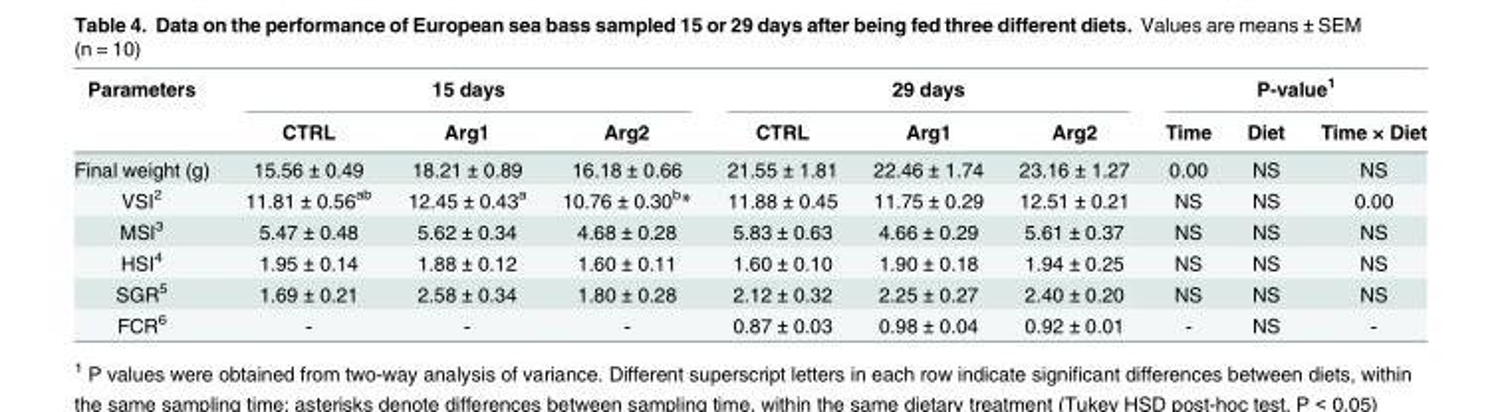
<table><thead><tr><td rowspan="2">Parameters</td><td colspan="3">15 days</td><td colspan="3">29 days</td><td colspan="3">P-value<sup>1</sup></td></tr><tr><td>CTRL</td><td>Arg1</td><td>Arg2</td><td>CTRL</td><td>Arg1</td><td>Arg2</td><td>Time</td><td>Diet</td><td>Time × Diet</td></tr></thead><tbody><tr><td>Final weight (g)</td><td>15.56 ± 0.49</td><td>18.21 ± 0.89</td><td>16.18 ± 0.66</td><td>21.55 ± 1.81</td><td>22.46 ± 1.74</td><td>23.16 ± 1.27</td><td>0.00</td><td>NS</td><td>NS</td></tr><tr><td>VSI<sup>2</sup></td><td>11.81 ± 0.56<sup>ab</sup></td><td>12.45 ± 0.43<sup>a</sup></td><td>10.76 ± 0.30<sup>b</sup>*</td><td>11.88 ± 0.45</td><td>11.75 ± 0.29</td><td>12.51 ± 0.21</td><td>NS</td><td>NS</td><td>0.00</td></tr><tr><td>MSI<sup>3</sup></td><td>5.47 ± 0.48</td><td>5.62 ± 0.34</td><td>4.68 ± 0.28</td><td>5.83 ± 0.63</td><td>4.66 ± 0.29</td><td>5.61 ± 0.37</td><td>NS</td><td>NS</td><td>NS</td></tr><tr><td>HSI<sup>4</sup></td><td>1.95 ± 0.14</td><td>1.88 ± 0.12</td><td>1.60 ± 0.11</td><td>1.60 ± 0.10</td><td>1.90 ± 0.18</td><td>1.94 ± 0.25</td><td>NS</td><td>NS</td><td>NS</td></tr><tr><td>SGR<sup>5</sup></td><td>1.69 ± 0.21</td><td>2.58 ± 0.34</td><td>1.80 ± 0.28</td><td>2.12 ± 0.32</td><td>2.25 ± 0.27</td><td>2.40 ± 0.20</td><td>NS</td><td>NS</td><td>NS</td></tr><tr><td>FCR<sup>6</sup></td><td>-</td><td>-</td><td>-</td><td>0.87 ± 0.03</td><td>0.98 ± 0.04</td><td>0.92 ± 0.01</td><td>-</td><td>NS</td><td>-</td></tr></tbody></table>